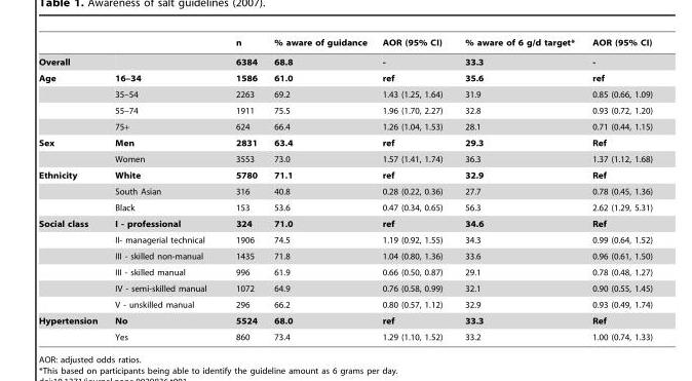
<table><thead><tr><td></td><td></td><td>n</td><td>% aware of guidance</td><td>AOR (95% CI)</td><td>% aware of 6 g/d target*</td><td>AOR (95% CI)</td></tr></thead><tbody><tr><td>Overall</td><td></td><td>6384</td><td>68.8</td><td>-</td><td>33.3</td><td>-</td></tr><tr><td rowspan="4">Age</td><td>16–34</td><td>1586</td><td>61.0</td><td>ref</td><td>35.6</td><td>ref</td></tr><tr><td>35–54</td><td>2263</td><td>69.2</td><td>1.43 (1.25, 1.64)</td><td>31.9</td><td>0.85 (0.66, 1.09)</td></tr><tr><td>55–74</td><td>1911</td><td>75.5</td><td>1.96 (1.70, 2.27)</td><td>32.8</td><td>0.93 (0.72, 1.20)</td></tr><tr><td>75+</td><td>624</td><td>66.4</td><td>1.26 (1.04, 1.53)</td><td>28.1</td><td>0.71 (0.44, 1.15)</td></tr><tr><td rowspan="2">Sex</td><td>Men</td><td>2831</td><td>63.4</td><td>ref</td><td>29.3</td><td>Ref</td></tr><tr><td>Women</td><td>3553</td><td>73.0</td><td>1.57 (1.41, 1.74)</td><td>36.3</td><td>1.37 (1.12, 1.68)</td></tr><tr><td rowspan="3">Ethnicity</td><td>White</td><td>5780</td><td>71.1</td><td>ref</td><td>32.9</td><td>Ref</td></tr><tr><td>South Asian</td><td>316</td><td>40.8</td><td>0.28 (0.22, 0.36)</td><td>27.7</td><td>0.78 (0.45, 1.36)</td></tr><tr><td>Black</td><td>153</td><td>53.6</td><td>0.47 (0.34, 0.65)</td><td>56.3</td><td>2.62 (1.29, 5.31)</td></tr><tr><td rowspan="6">Social class</td><td>I - professional</td><td>324</td><td>71.0</td><td>ref</td><td>34.6</td><td>Ref</td></tr><tr><td>II- managerial technical</td><td>1906</td><td>74.5</td><td>1.19 (0.92, 1.55)</td><td>34.3</td><td>0.99 (0.64, 1.52)</td></tr><tr><td>III - skilled non-manual</td><td>1435</td><td>71.8</td><td>1.04 (0.80, 1.36)</td><td>33.6</td><td>0.96 (0.61, 1.50)</td></tr><tr><td>III - skilled manual</td><td>996</td><td>61.9</td><td>0.66 (0.50, 0.87)</td><td>29.1</td><td>0.78 (0.48, 1.27)</td></tr><tr><td>IV - semi-skilled manual</td><td>1072</td><td>64.9</td><td>0.76 (0.58, 0.99)</td><td>32.1</td><td>0.90 (0.55, 1.45)</td></tr><tr><td>V - unskilled manual</td><td>296</td><td>66.2</td><td>0.80 (0.57, 1.12)</td><td>32.9</td><td>0.93 (0.49, 1.74)</td></tr><tr><td rowspan="2">Hypertension</td><td>No</td><td>5524</td><td>68.0</td><td>ref</td><td>33.3</td><td>Ref</td></tr><tr><td>Yes</td><td>860</td><td>73.4</td><td>1.29 (1.10, 1.52)</td><td>33.2</td><td>1.00 (0.74, 1.33)</td></tr></tbody></table>